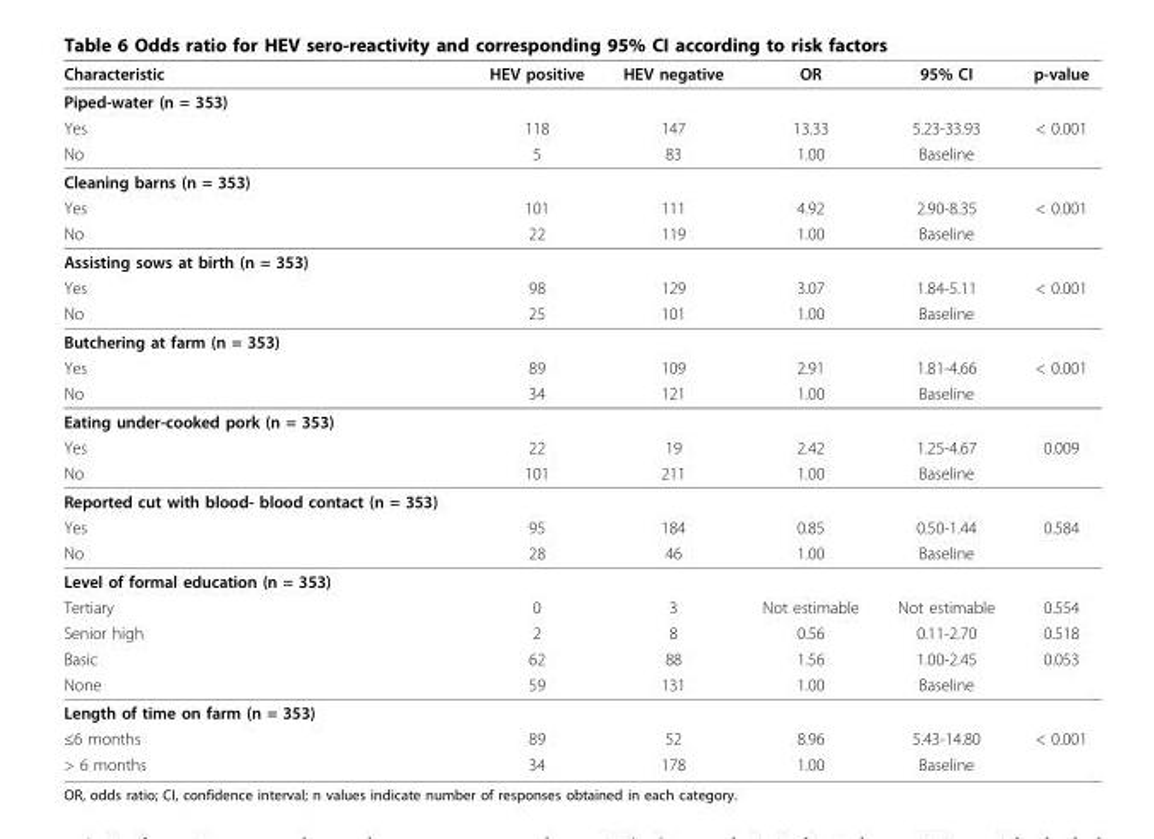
<table><thead><tr><td>Characteristic</td><td>HEV positive</td><td>HEV negative</td><td>OR</td><td>95% CI</td><td>p-value</td></tr></thead><tbody><tr><td colspan="6">Piped-water (n = 353)</td></tr><tr><td>Yes</td><td>118</td><td>147</td><td>13.33</td><td>5.23-33.93</td><td>&lt; 0.001</td></tr><tr><td>No</td><td>5</td><td>83</td><td>1.00</td><td>Baseline</td><td></td></tr><tr><td colspan="6">Cleaning barns (n = 353)</td></tr><tr><td>Yes</td><td>101</td><td>111</td><td>4.92</td><td>2.90-8.35</td><td>&lt; 0.001</td></tr><tr><td>No</td><td>22</td><td>119</td><td>1.00</td><td>Baseline</td><td></td></tr><tr><td colspan="6">Assisting sows at birth (n = 353)</td></tr><tr><td>Yes</td><td>98</td><td>129</td><td>3.07</td><td>1.84-5.11</td><td>&lt; 0.001</td></tr><tr><td>No</td><td>25</td><td>101</td><td>1.00</td><td>Baseline</td><td></td></tr><tr><td colspan="6">Butchering at farm (n = 353)</td></tr><tr><td>Yes</td><td>89</td><td>109</td><td>2.91</td><td>1.81-4.66</td><td>&lt; 0.001</td></tr><tr><td>No</td><td>34</td><td>121</td><td>1.00</td><td>Baseline</td><td></td></tr><tr><td colspan="6">Eating under-cooked pork (n = 353)</td></tr><tr><td>Yes</td><td>22</td><td>19</td><td>2.42</td><td>1.25-4.67</td><td>0.009</td></tr><tr><td>No</td><td>101</td><td>211</td><td>1.00</td><td>Baseline</td><td></td></tr><tr><td colspan="6">Reported cut with blood- blood contact (n = 353)</td></tr><tr><td>Yes</td><td>95</td><td>184</td><td>0.85</td><td>0.50-1.44</td><td>0.584</td></tr><tr><td>No</td><td>28</td><td>46</td><td>1.00</td><td>Baseline</td><td></td></tr><tr><td colspan="6">Level of formal education (n = 353)</td></tr><tr><td>Tertiary</td><td>0</td><td>3</td><td>Not estimable</td><td>Not estimable</td><td>0.554</td></tr><tr><td>Senior high</td><td>2</td><td>8</td><td>0.56</td><td>0.11-2.70</td><td>0.518</td></tr><tr><td>Basic</td><td>62</td><td>88</td><td>1.56</td><td>1.00-2.45</td><td>0.053</td></tr><tr><td>None</td><td>59</td><td>131</td><td>1.00</td><td>Baseline</td><td></td></tr><tr><td colspan="6">Length of time on farm (n = 353)</td></tr><tr><td>≤6 months</td><td>89</td><td>52</td><td>8.96</td><td>5.43-14.80</td><td>&lt; 0.001</td></tr><tr><td>&gt; 6 months</td><td>34</td><td>178</td><td>1.00</td><td>Baseline</td><td></td></tr></tbody></table>